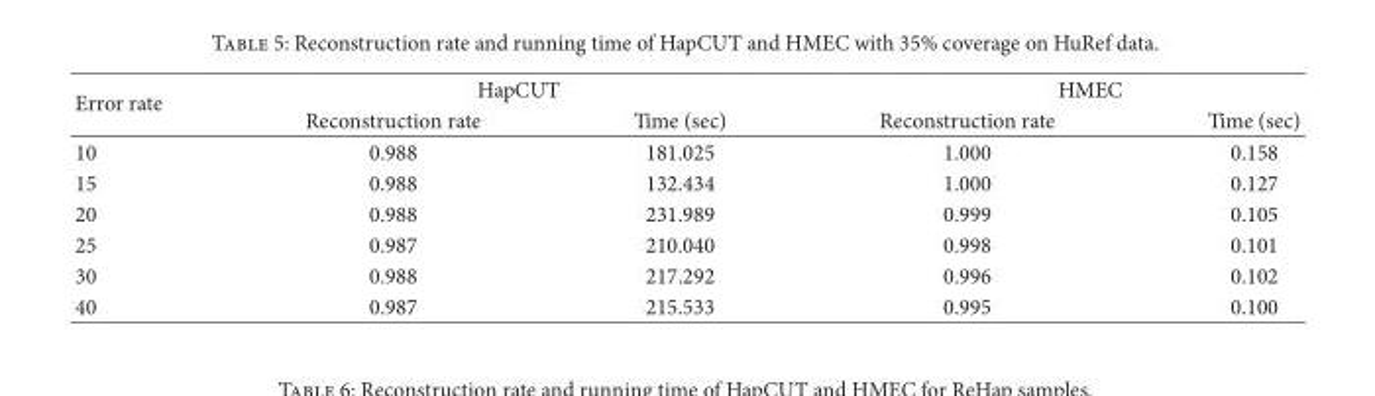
<table><thead><tr><td rowspan="2">Error rate</td><td colspan="2">HapCUT</td><td colspan="2">HMEC</td></tr><tr><td>Reconstruction rate</td><td>Time (sec)</td><td>Reconstruction rate</td><td>Time (sec)</td></tr></thead><tbody><tr><td>10</td><td>0.988</td><td>181.025</td><td>1.000</td><td>0.158</td></tr><tr><td>15</td><td>0.988</td><td>132.434</td><td>1.000</td><td>0.127</td></tr><tr><td>20</td><td>0.988</td><td>231.989</td><td>0.999</td><td>0.105</td></tr><tr><td>25</td><td>0.987</td><td>210.040</td><td>0.998</td><td>0.101</td></tr><tr><td>30</td><td>0.988</td><td>217.292</td><td>0.996</td><td>0.102</td></tr><tr><td>40</td><td>0.987</td><td>215.533</td><td>0.995</td><td>0.100</td></tr></tbody></table>